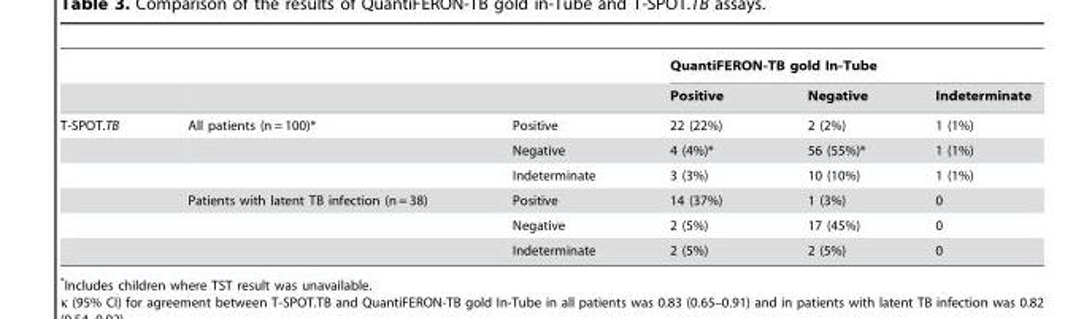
<table><thead><tr><td rowspan="2"></td><td rowspan="2"></td><td rowspan="2"></td><td colspan="3">QuantiFERON-TB gold In-Tube</td></tr><tr><td>Positive</td><td>Negative</td><td>Indeterminate</td></tr></thead><tbody><tr><td rowspan="6">T-SPOT.TB</td><td>All patients (n = 100)*</td><td>Positive</td><td>22 (22%)</td><td>2 (2%)</td><td>1 (1%)</td></tr><tr><td></td><td>Negative</td><td>4 (4%)*</td><td>56 (55%)*</td><td>1 (1%)</td></tr><tr><td></td><td>Indeterminate</td><td>3 (3%)</td><td>10 (10%)</td><td>1 (1%)</td></tr><tr><td>Patients with latent TB infection (n = 38)</td><td>Positive</td><td>14 (37%)</td><td>1 (3%)</td><td>0</td></tr><tr><td></td><td>Negative</td><td>2 (5%)</td><td>17 (45%)</td><td>0</td></tr><tr><td></td><td>Indeterminate</td><td>2 (5%)</td><td>2 (5%)</td><td>0</td></tr></tbody></table>